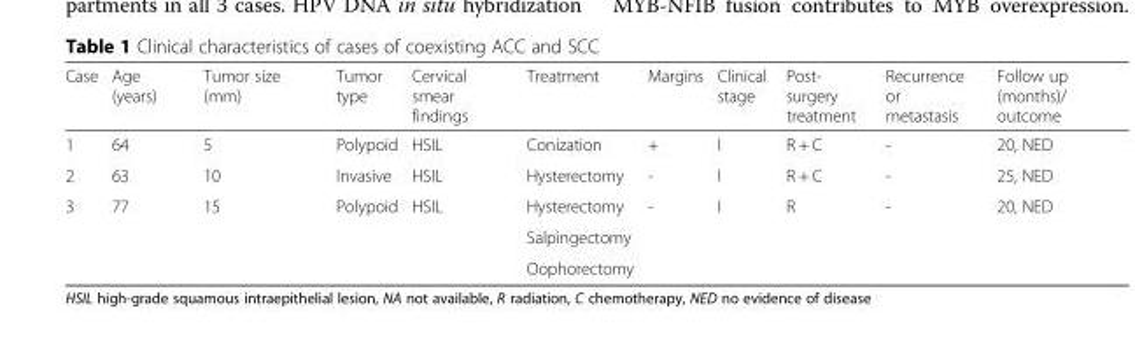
<table><thead><tr><td>Case</td><td>Age (years)</td><td>Tumor size (mm)</td><td>Tumor type</td><td>Cervical smear findings</td><td>Treatment</td><td>Margins</td><td>Clinical stage</td><td>Post- surgery treatment</td><td>Recurrence or metastasis</td><td>Follow up (months)/ outcome</td></tr></thead><tbody><tr><td>1</td><td>64</td><td>5</td><td>Polypoid</td><td>HSIL</td><td>Conization</td><td>+</td><td>I</td><td>R + C</td><td>-</td><td>20, NED</td></tr><tr><td>2</td><td>63</td><td>10</td><td>Invasive</td><td>HSIL</td><td>Hysterectomy</td><td>-</td><td>I</td><td>R + C</td><td>-</td><td>25, NED</td></tr><tr><td rowspan="3">3</td><td rowspan="3">77</td><td rowspan="3">15</td><td rowspan="3">Polypoid</td><td rowspan="3">HSIL</td><td>Hysterectomy</td><td rowspan="3">-</td><td rowspan="3">I</td><td rowspan="3">R</td><td rowspan="3">-</td><td rowspan="3">20, NED</td></tr><tr><td>Salpingectomy</td></tr><tr><td>Oophorectomy</td></tr></tbody></table>